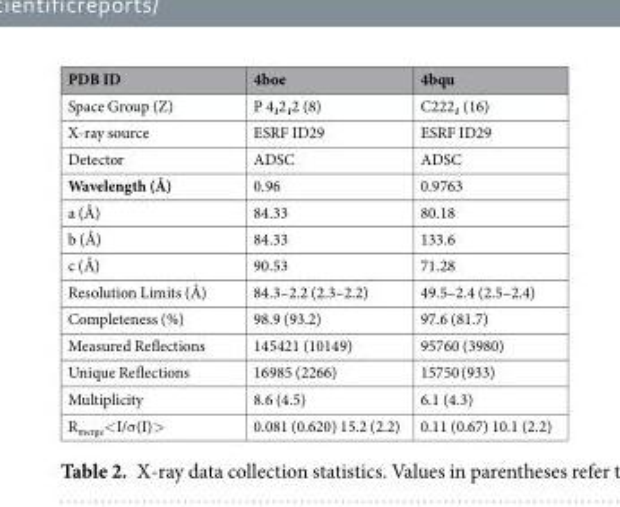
<table><thead><tr><td>PDB ID</td><td>4boe</td><td>4bqu</td></tr></thead><tbody><tr><td>Space Group (Z)</td><td>P 4<sub>1</sub>2<sub>1</sub>2 (8)</td><td>C222<sub>1</sub> (16)</td></tr><tr><td>X-ray source</td><td>ESRF ID29</td><td>ESRF ID29</td></tr><tr><td>Detector</td><td>ADSC</td><td>ADSC</td></tr><tr><td>Wavelength (Å)</td><td>0.96</td><td>0.9763</td></tr><tr><td>a (Å)</td><td>84.33</td><td>80.18</td></tr><tr><td>b (Å)</td><td>84.33</td><td>133.6</td></tr><tr><td>c (Å)</td><td>90.53</td><td>71.28</td></tr><tr><td>Resolution Limits (Å)</td><td>84.3–2.2 (2.3–2.2)</td><td>49.5–2.4 (2.5–2.4)</td></tr><tr><td>Completeness (%)</td><td>98.9 (93.2)</td><td>97.6 (81.7)</td></tr><tr><td>Measured Reflections</td><td>145421 (10149)</td><td>95760 (3980)</td></tr><tr><td>Unique Reflections</td><td>16985 (2266)</td><td>15750 (933)</td></tr><tr><td>Multiplicity</td><td>8.6 (4.5)</td><td>6.1 (4.3)</td></tr><tr><td>R<sub>merge</sub>&lt;I/σ(I)&gt;</td><td>0.081 (0.620) 15.2 (2.2)</td><td>0.11 (0.67) 10.1 (2.2)</td></tr></tbody></table>